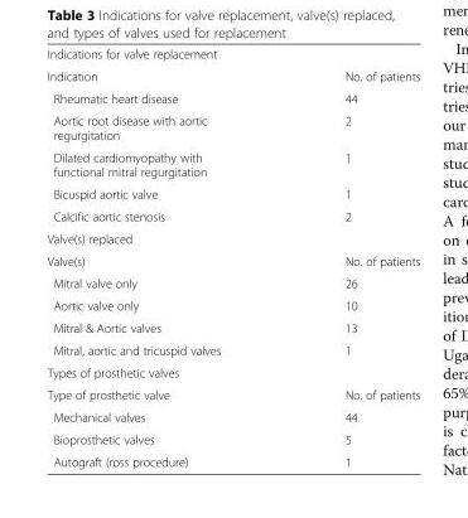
<table><tbody><tr><td colspan="2">Indications for valve replacement</td></tr><tr><td>Indication</td><td>No. of patients</td></tr><tr><td>Rheumatic heart disease</td><td>44</td></tr><tr><td>Aortic root disease with aortic regurgitation</td><td>2</td></tr><tr><td>Dilated cardiomyopathy with functional mitral regurgitation</td><td>1</td></tr><tr><td>Bicuspid aortic valve</td><td>1</td></tr><tr><td>Calcific aortic stenosis</td><td>2</td></tr><tr><td colspan="2">Valve(s) replaced</td></tr><tr><td>Valve(s)</td><td>No. of patients</td></tr><tr><td>Mitral valve only</td><td>26</td></tr><tr><td>Aortic valve only</td><td>10</td></tr><tr><td>Mitral &amp; Aortic valves</td><td>13</td></tr><tr><td>Mitral, aortic and tricuspid valves</td><td>1</td></tr><tr><td colspan="2">Types of prosthetic valves</td></tr><tr><td>Type of prosthetic valve</td><td>No. of patients</td></tr><tr><td>Mechanical valves</td><td>44</td></tr><tr><td>Bioprosthetic valves</td><td>5</td></tr><tr><td>Autograft (ross procedure)</td><td>1</td></tr></tbody></table>